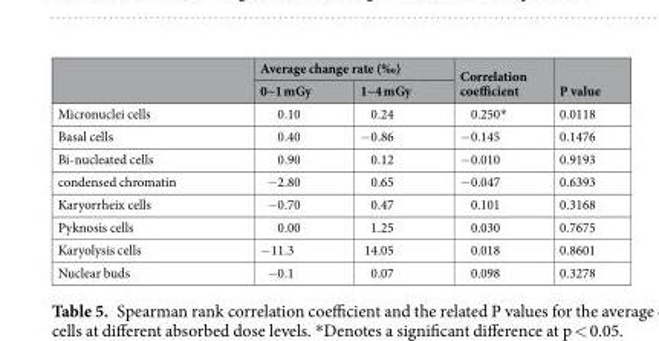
<table><thead><tr><td rowspan="2"></td><td colspan="2">Average change rate (‰)</td><td rowspan="2">Correlation coefficient</td><td rowspan="2">P value</td></tr><tr><td>0~1 mGy</td><td>1~4 mGy</td></tr></thead><tbody><tr><td>Micronuclei cells</td><td>0.10</td><td>0.24</td><td>0.250*</td><td>0.0118</td></tr><tr><td>Basal cells</td><td>0.40</td><td>−0.86</td><td>−0.145</td><td>0.1476</td></tr><tr><td>Bi-nucleated cells</td><td>0.90</td><td>0.12</td><td>−0.010</td><td>0.9193</td></tr><tr><td>condensed chromatin</td><td>−2.80</td><td>0.65</td><td>−0.047</td><td>0.6393</td></tr><tr><td>Karyorrheix cells</td><td>−0.70</td><td>0.47</td><td>0.101</td><td>0.3168</td></tr><tr><td>Pyknosis cells</td><td>0.00</td><td>1.25</td><td>0.030</td><td>0.7675</td></tr><tr><td>Karyolysis cells</td><td>−11.3</td><td>14.05</td><td>0.018</td><td>0.8601</td></tr><tr><td>Nuclear buds</td><td>−0.1</td><td>0.07</td><td>0.098</td><td>0.3278</td></tr></tbody></table>